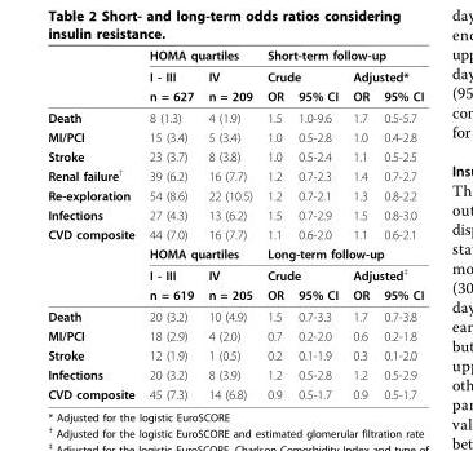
<table><thead><tr><td rowspan="3"></td><td colspan="2">HOMA quartiles</td><td colspan="4">Short-term follow-up</td></tr><tr><td rowspan="2">I - III n = 627</td><td rowspan="2">IV n = 209</td><td colspan="2">Crude</td><td colspan="2">Adjusted*</td></tr><tr><td>OR</td><td>95% CI</td><td>OR</td><td>95% CI</td></tr></thead><tbody><tr><td>Death</td><td>8 (1.3)</td><td>4 (1.9)</td><td>1.5</td><td>1.0-9.6</td><td>1.7</td><td>0.5-5.7</td></tr><tr><td>MI/PCI</td><td>15 (3.4)</td><td>5 (3.4)</td><td>1.0</td><td>0.5-2.8</td><td>1.0</td><td>0.4-2.8</td></tr><tr><td>Stroke</td><td>23 (3.7)</td><td>8 (3.8)</td><td>1.0</td><td>0.5-2.4</td><td>1.1</td><td>0.5-2.5</td></tr><tr><td>Renal failure<sup>†</sup></td><td>39 (6.2)</td><td>16 (7.7)</td><td>1.2</td><td>0.7-2.3</td><td>1.4</td><td>0.7-2.7</td></tr><tr><td>Re-exploration</td><td>54 (8.6)</td><td>22 (10.5)</td><td>1.2</td><td>0.7-2.1</td><td>1.3</td><td>0.8-2.2</td></tr><tr><td>Infections</td><td>27 (4.3)</td><td>13 (6.2)</td><td>1.5</td><td>0.7-2.9</td><td>1.5</td><td>0.8-3.0</td></tr><tr><td rowspan="4">CVD composite</td><td>44 (7.0)</td><td>16 (7.7)</td><td>1.1</td><td>0.6-2.0</td><td>1.1</td><td>0.6-2.1</td></tr><tr><td colspan="2">HOMA quartiles</td><td colspan="4">Long-term follow-up</td></tr><tr><td>I - III</td><td>IV</td><td colspan="2">Crude</td><td colspan="2">Adjusted<sup>‡</sup></td></tr><tr><td>n = 619</td><td>n = 205</td><td>OR</td><td>95% CI</td><td>OR</td><td>95% CI</td></tr><tr><td>Death</td><td>20 (3.2)</td><td>10 (4.9)</td><td>1.5</td><td>0.7-3.3</td><td>1.7</td><td>0.7-3.8</td></tr><tr><td>MI/PCI</td><td>18 (2.9)</td><td>4 (2.0)</td><td>0.7</td><td>0.2-2.0</td><td>0.6</td><td>0.2-1.8</td></tr><tr><td>Stroke</td><td>12 (1.9)</td><td>1 (0.5)</td><td>0.2</td><td>0.1-1.9</td><td>0.3</td><td>0.1-2.0</td></tr><tr><td>Infections</td><td>20 (3.2)</td><td>8 (3.9)</td><td>1.2</td><td>0.5-2.8</td><td>1.2</td><td>0.5-2.9</td></tr><tr><td>CVD composite</td><td>45 (7.3)</td><td>14 (6.8)</td><td>0.9</td><td>0.5-1.7</td><td>0.9</td><td>0.5-1.7</td></tr></tbody></table>